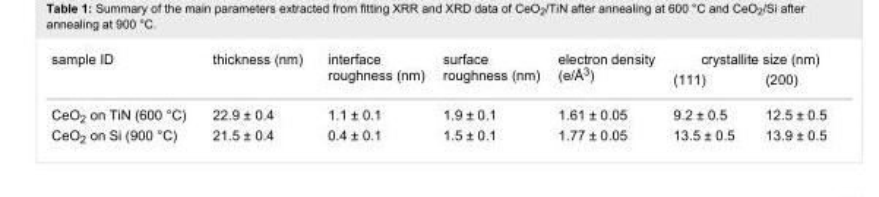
<table><tbody><tr><td rowspan="2">sample ID</td><td rowspan="2">thickness (nm)</td><td rowspan="2">interface roughness (nm)</td><td rowspan="2">surface roughness (nm)</td><td rowspan="2">electron density (e/Å<sup>3</sup>)</td><td colspan="2">crystallite size (nm)</td></tr><tr><td>(111)</td><td>(200)</td></tr><tr><td>CeO<sub>2</sub> on TiN (600 °C)</td><td>22.9 ± 0.4</td><td>1.1 ± 0.1</td><td>1.9 ± 0.1</td><td>1.61 ± 0.05</td><td>9.2 ± 0.5</td><td>12.5 ± 0.5</td></tr><tr><td>CeO<sub>2</sub> on Si (900 °C)</td><td>21.5 ± 0.4</td><td>0.4 ± 0.1</td><td>1.5 ± 0.1</td><td>1.77 ± 0.05</td><td>13.5 ± 0.5</td><td>13.9 ± 0.5</td></tr></tbody></table>